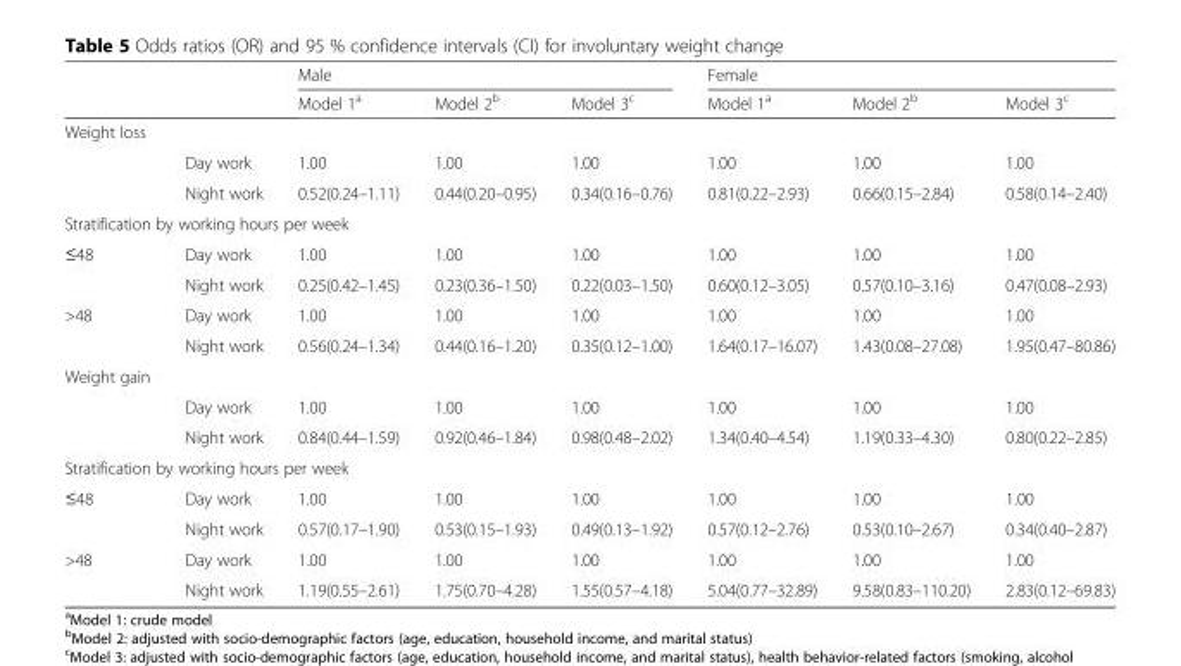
<table><thead><tr><td rowspan="2"></td><td rowspan="2"></td><td colspan="3">Male</td><td colspan="3">Female</td></tr><tr><td>Model 1<sup>a</sup></td><td>Model 2<sup>b</sup></td><td>Model 3<sup>c</sup></td><td>Model 1<sup>a</sup></td><td>Model 2<sup>b</sup></td><td>Model 3<sup>c</sup></td></tr></thead><tbody><tr><td colspan="8">Weight loss</td></tr><tr><td></td><td>Day work</td><td>1.00</td><td>1.00</td><td>1.00</td><td>1.00</td><td>1.00</td><td>1.00</td></tr><tr><td></td><td>Night work</td><td>0.52(0.24–1.11)</td><td>0.44(0.20–0.95)</td><td>0.34(0.16–0.76)</td><td>0.81(0.22–2.93)</td><td>0.66(0.15–2.84)</td><td>0.58(0.14–2.40)</td></tr><tr><td colspan="8">Stratification by working hours per week</td></tr><tr><td rowspan="2">≤48</td><td>Day work</td><td>1.00</td><td>1.00</td><td>1.00</td><td>1.00</td><td>1.00</td><td>1.00</td></tr><tr><td>Night work</td><td>0.25(0.42–1.45)</td><td>0.23(0.36–1.50)</td><td>0.22(0.03–1.50)</td><td>0.60(0.12–3.05)</td><td>0.57(0.10–3.16)</td><td>0.47(0.08–2.93)</td></tr><tr><td rowspan="2">&gt;48</td><td>Day work</td><td>1.00</td><td>1.00</td><td>1.00</td><td>1.00</td><td>1.00</td><td>1.00</td></tr><tr><td>Night work</td><td>0.56(0.24–1.34)</td><td>0.44(0.16–1.20)</td><td>0.35(0.12–1.00)</td><td>1.64(0.17–16.07)</td><td>1.43(0.08–27.08)</td><td>1.95(0.47–80.86)</td></tr><tr><td colspan="8">Weight gain</td></tr><tr><td></td><td>Day work</td><td>1.00</td><td>1.00</td><td>1.00</td><td>1.00</td><td>1.00</td><td>1.00</td></tr><tr><td></td><td>Night work</td><td>0.84(0.44–1.59)</td><td>0.92(0.46–1.84)</td><td>0.98(0.48–2.02)</td><td>1.34(0.40–4.54)</td><td>1.19(0.33–4.30)</td><td>0.80(0.22–2.85)</td></tr><tr><td colspan="8">Stratification by working hours per week</td></tr><tr><td rowspan="2">≤48</td><td>Day work</td><td>1.00</td><td>1.00</td><td>1.00</td><td>1.00</td><td>1.00</td><td>1.00</td></tr><tr><td>Night work</td><td>0.57(0.17–1.90)</td><td>0.53(0.15–1.93)</td><td>0.49(0.13–1.92)</td><td>0.57(0.12–2.76)</td><td>0.53(0.10–2.67)</td><td>0.34(0.40–2.87)</td></tr><tr><td rowspan="2">&gt;48</td><td>Day work</td><td>1.00</td><td>1.00</td><td>1.00</td><td>1.00</td><td>1.00</td><td>1.00</td></tr><tr><td>Night work</td><td>1.19(0.55–2.61)</td><td>1.75(0.70–4.28)</td><td>1.55(0.57–4.18)</td><td>5.04(0.77–32.89)</td><td>9.58(0.83–110.20)</td><td>2.83(0.12–69.83)</td></tr></tbody></table>